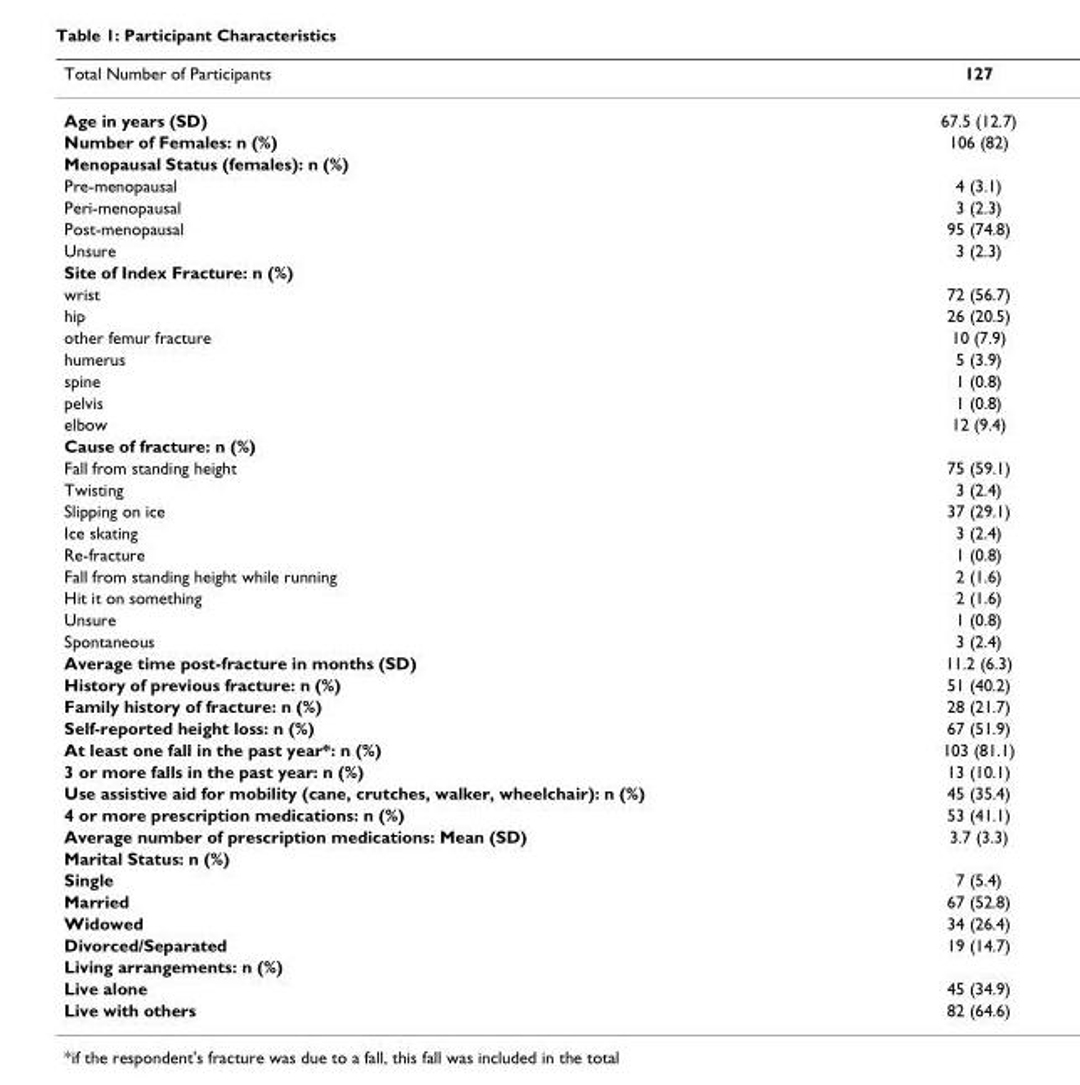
<table><thead><tr><td>Total Number of Participants</td><td>127</td></tr></thead><tbody><tr><td>Age in years (SD)</td><td>67.5 (12.7)</td></tr><tr><td>Number of Females: n (%)</td><td>106 (82)</td></tr><tr><td colspan="2">Menopausal Status (females): n (%)</td></tr><tr><td>Pre-menopausal</td><td>4 (3.1)</td></tr><tr><td>Peri-menopausal</td><td>3 (2.3)</td></tr><tr><td>Post-menopausal</td><td>95 (74.8)</td></tr><tr><td>Unsure</td><td>3 (2.3)</td></tr><tr><td colspan="2">Site of Index Fracture: n (%)</td></tr><tr><td>wrist</td><td>72 (56.7)</td></tr><tr><td>hip</td><td>26 (20.5)</td></tr><tr><td>other femur fracture</td><td>10 (7.9)</td></tr><tr><td>humerus</td><td>5 (3.9)</td></tr><tr><td>spine</td><td>1 (0.8)</td></tr><tr><td>pelvis</td><td>1 (0.8)</td></tr><tr><td>elbow</td><td>12 (9.4)</td></tr><tr><td colspan="2">Cause of fracture: n (%)</td></tr><tr><td>Fall from standing height</td><td>75 (59.1)</td></tr><tr><td>Twisting</td><td>3 (2.4)</td></tr><tr><td>Slipping on ice</td><td>37 (29.1)</td></tr><tr><td>Ice skating</td><td>3 (2.4)</td></tr><tr><td>Re-fracture</td><td>1 (0.8)</td></tr><tr><td>Fall from standing height while running</td><td>2 (1.6)</td></tr><tr><td>Hit it on something</td><td>2 (1.6)</td></tr><tr><td>Unsure</td><td>1 (0.8)</td></tr><tr><td>Spontaneous</td><td>3 (2.4)</td></tr><tr><td>Average time post-fracture in months (SD)</td><td>11.2 (6.3)</td></tr><tr><td>History of previous fracture: n (%)</td><td>51 (40.2)</td></tr><tr><td>Family history of fracture: n (%)</td><td>28 (21.7)</td></tr><tr><td>Self-reported height loss: n (%)</td><td>67 (51.9)</td></tr><tr><td>At least one fall in the past year*: n (%)</td><td>103 (81.1)</td></tr><tr><td>3 or more falls in the past year: n (%)</td><td>13 (10.1)</td></tr><tr><td>Use assistive aid for mobility (cane, crutches, walker, wheelchair): n (%)</td><td>45 (35.4)</td></tr><tr><td>4 or more prescription medications: n (%)</td><td>53 (41.1)</td></tr><tr><td>Average number of prescription medications: Mean (SD)</td><td>3.7 (3.3)</td></tr><tr><td colspan="2">Marital Status: n (%)</td></tr><tr><td>Single</td><td>7 (5.4)</td></tr><tr><td>Married</td><td>67 (52.8)</td></tr><tr><td>Widowed</td><td>34 (26.4)</td></tr><tr><td>Divorced/Separated</td><td>19 (14.7)</td></tr><tr><td colspan="2">Living arrangements: n (%)</td></tr><tr><td>Live alone</td><td>45 (34.9)</td></tr><tr><td>Live with others</td><td>82 (64.6)</td></tr></tbody></table>